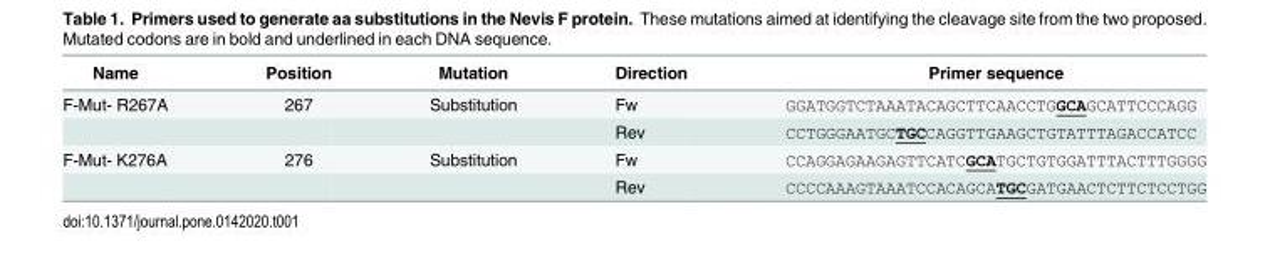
<table><thead><tr><td>Name</td><td>Position</td><td>Mutation</td><td>Direction</td><td>Primer sequence</td></tr></thead><tbody><tr><td rowspan="2">F-Mut- R267A</td><td>267</td><td>Substitution</td><td>Fw</td><td>GGATGGTCTAAATACAGCTTCAACCTGGCAGCATTCCCAGG</td></tr><tr><td></td><td></td><td>Rev</td><td>CCTGGGAATGCTGCCAGGTTGAAGCTGTATTTAGACCATCC</td></tr><tr><td rowspan="2">F-Mut- K276A</td><td>276</td><td>Substitution</td><td>Fw</td><td>CCAGGAGAAGAGTTCATCGCATGCTGTGGATTTACTTTGGGG</td></tr><tr><td></td><td></td><td>Rev</td><td>CCCCAAAGTAAATCCACAGCATGCGATGAACTCTTCTCCTGG</td></tr></tbody></table>